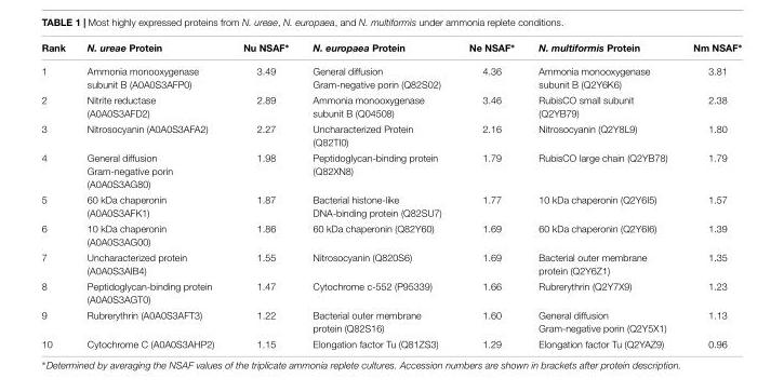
<table><thead><tr><td>Rank</td><td>N. ureae Protein</td><td>Nu NSAF∗</td><td>N. europaea Protein</td><td>Ne NSAF∗</td><td>N. multiformis Protein</td><td>Nm NSAF∗</td></tr></thead><tbody><tr><td>1</td><td>Ammonia monooxygenase subunit B (A0A0S3AFP0)</td><td>3.49</td><td>General diffusion Gram-negative porin (Q82S02)</td><td>4.36</td><td>Ammonia monooxygenase subunit B (Q2Y6K6)</td><td>3.81</td></tr><tr><td>2</td><td>Nitrite reductase (A0A0S3AFD2)</td><td>2.89</td><td>Ammonia monooxygenase subunit B (Q04508)</td><td>3.46</td><td>RubisCO small subunit (Q2YB79)</td><td>2.38</td></tr><tr><td>3</td><td>Nitrosocyanin (A0A0S3AFA2)</td><td>2.27</td><td>Uncharacterized Protein (Q82TI0)</td><td>2.16</td><td>Nitrosocyanin (Q2Y8L9)</td><td>1.80</td></tr><tr><td>4</td><td>General diffusion Gram-negative porin (A0A0S3AG80)</td><td>1.98</td><td>Peptidoglycan-binding protein (Q82XN8)</td><td>1.79</td><td>RubisCO large chain (Q2YB78)</td><td>1.79</td></tr><tr><td>5</td><td>60 kDa chaperonin (A0A0S3AFK1)</td><td>1.87</td><td>Bacterial histone-like DNA-binding protein (Q82SU7)</td><td>1.77</td><td>10 kDa chaperonin (Q2Y6I5)</td><td>1.57</td></tr><tr><td>6</td><td>10 kDa chaperonin (A0A0S3AG00)</td><td>1.86</td><td>60 kDa chaperonin (Q82Y60)</td><td>1.69</td><td>60 kDa chaperonin (Q2Y6I6)</td><td>1.39</td></tr><tr><td>7</td><td>Uncharacterized protein (A0A0S3AIB4)</td><td>1.55</td><td>Nitrosocyanin (Q820S6)</td><td>1.69</td><td>Bacterial outer membrane protein (Q2Y6Z1)</td><td>1.35</td></tr><tr><td>8</td><td>Peptidoglycan-binding protein (A0A0S3AGT0)</td><td>1.47</td><td>Cytochrome c-552 (P95339)</td><td>1.66</td><td>Rubrerythrin (Q2Y7X9)</td><td>1.23</td></tr><tr><td>9</td><td>Rubrerythrin (A0A0S3AFT3)</td><td>1.22</td><td>Bacterial outer membrane protein (Q82S16)</td><td>1.60</td><td>General diffusion Gram-negative porin (Q2Y5X1)</td><td>1.13</td></tr><tr><td>10</td><td>Cytochrome C (A0A0S3AHP2)</td><td>1.15</td><td>Elongation factor Tu (Q81ZS3)</td><td>1.29</td><td>Elongation factor Tu (Q2YAZ9)</td><td>0.96</td></tr></tbody></table>